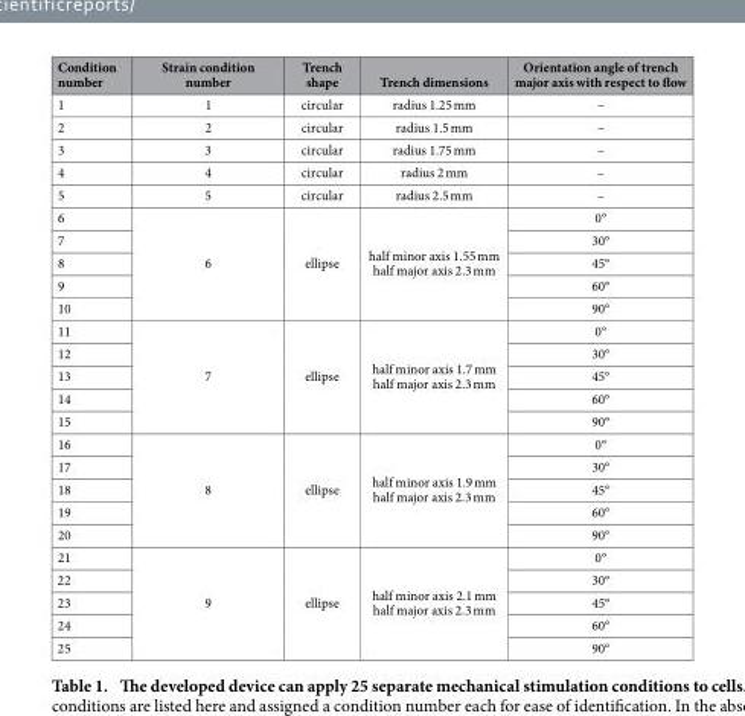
<table><thead><tr><td>Condition number</td><td>Strain condition number</td><td>Trench shape</td><td>Trench dimensions</td><td>Orientation angle of trench major axis with respect to flow</td></tr></thead><tbody><tr><td>1</td><td>1</td><td>circular</td><td>radius 1.25 mm</td><td>–</td></tr><tr><td>2</td><td>2</td><td>circular</td><td>radius 1.5 mm</td><td>–</td></tr><tr><td>3</td><td>3</td><td>circular</td><td>radius 1.75 mm</td><td>–</td></tr><tr><td>4</td><td>4</td><td>circular</td><td>radius 2 mm</td><td>–</td></tr><tr><td>5</td><td>5</td><td>circular</td><td>radius 2.5 mm</td><td>–</td></tr><tr><td>6</td><td rowspan="5">6</td><td rowspan="5">ellipse</td><td rowspan="5">half minor axis 1.55 mm half major axis 2.3 mm</td><td>0°</td></tr><tr><td>7</td><td>30°</td></tr><tr><td>8</td><td>45°</td></tr><tr><td>9</td><td>60°</td></tr><tr><td>10</td><td>90°</td></tr><tr><td>11</td><td rowspan="5">7</td><td rowspan="5">ellipse</td><td rowspan="5">half minor axis 1.7 mm half major axis 2.3 mm</td><td>0°</td></tr><tr><td>12</td><td>30°</td></tr><tr><td>13</td><td>45°</td></tr><tr><td>14</td><td>60°</td></tr><tr><td>15</td><td>90°</td></tr><tr><td>16</td><td rowspan="5">8</td><td rowspan="5">ellipse</td><td rowspan="5">half minor axis 1.9 mm half major axis 2.3 mm</td><td>0°</td></tr><tr><td>17</td><td>30°</td></tr><tr><td>18</td><td>45°</td></tr><tr><td>19</td><td>60°</td></tr><tr><td>20</td><td>90°</td></tr><tr><td>21</td><td rowspan="5">9</td><td rowspan="5">ellipse</td><td rowspan="5">half minor axis 2.1 mm half major axis 2.3 mm</td><td>0°</td></tr><tr><td>22</td><td>30°</td></tr><tr><td>23</td><td>45°</td></tr><tr><td>24</td><td>60°</td></tr><tr><td>25</td><td>90°</td></tr></tbody></table>